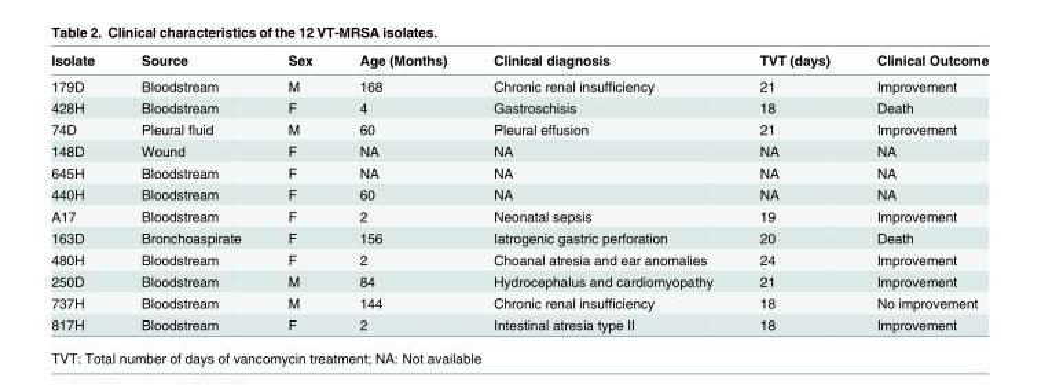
<table><thead><tr><td>Isolate</td><td>Source</td><td>Sex</td><td>Age (Months)</td><td>Clinical diagnosis</td><td>TVT (days)</td><td>Clinical Outcome</td></tr></thead><tbody><tr><td>179D</td><td>Bloodstream</td><td>M</td><td>168</td><td>Chronic renal insufficiency</td><td>21</td><td>Improvement</td></tr><tr><td>428H</td><td>Bloodstream</td><td>F</td><td>4</td><td>Gastroschisis</td><td>18</td><td>Death</td></tr><tr><td>74D</td><td>Pleural fluid</td><td>M</td><td>60</td><td>Pleural effusion</td><td>21</td><td>Improvement</td></tr><tr><td>148D</td><td>Wound</td><td>F</td><td>NA</td><td>NA</td><td>NA</td><td>NA</td></tr><tr><td>645H</td><td>Bloodstream</td><td>F</td><td>NA</td><td>NA</td><td>NA</td><td>NA</td></tr><tr><td>440H</td><td>Bloodstream</td><td>F</td><td>60</td><td>NA</td><td>NA</td><td>NA</td></tr><tr><td>A17</td><td>Bloodstream</td><td>F</td><td>2</td><td>Neonatal sepsis</td><td>19</td><td>Improvement</td></tr><tr><td>163D</td><td>Bronchoaspirate</td><td>F</td><td>156</td><td>Iatrogenic gastric perforation</td><td>20</td><td>Death</td></tr><tr><td>480H</td><td>Bloodstream</td><td>F</td><td>2</td><td>Choanal atresia and ear anomalies</td><td>24</td><td>Improvement</td></tr><tr><td>250D</td><td>Bloodstream</td><td>M</td><td>84</td><td>Hydrocephalus and cardiomyopathy</td><td>21</td><td>Improvement</td></tr><tr><td>737H</td><td>Bloodstream</td><td>M</td><td>144</td><td>Chronic renal insufficiency</td><td>18</td><td>No improvement</td></tr><tr><td>817H</td><td>Bloodstream</td><td>F</td><td>2</td><td>Intestinal atresia type II</td><td>18</td><td>Improvement</td></tr></tbody></table>